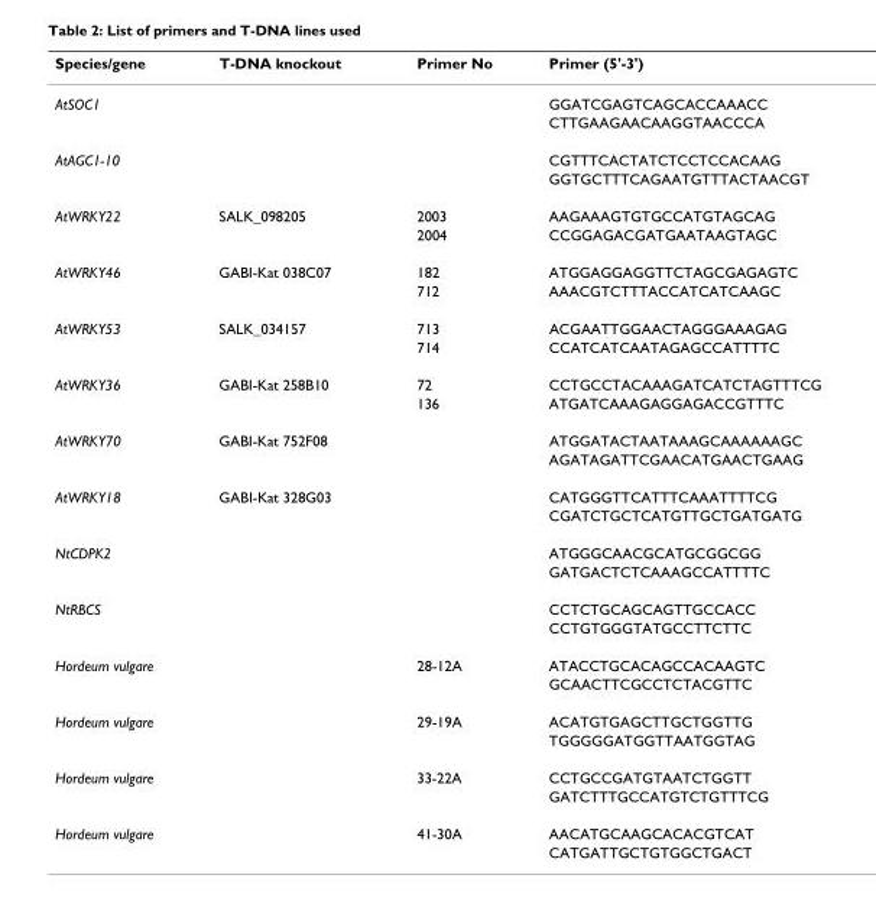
<table><thead><tr><td>Species/gene</td><td>T-DNA knockout</td><td>Primer No</td><td>Primer (5&#x27;-3&#x27;)</td></tr></thead><tbody><tr><td rowspan="2">AtSOC1</td><td></td><td></td><td>GGATCGAGTCAGCACCAAACC</td></tr><tr><td></td><td></td><td>CTTGAAGAACAAGGTAACCCA</td></tr><tr><td rowspan="2">AtAGC1-10</td><td></td><td></td><td>CGTTTCACTATCTCCTCCACAAG</td></tr><tr><td></td><td></td><td>GGTGCTTTCAGAATGTTTACTAACGT</td></tr><tr><td rowspan="2">AtWRKY22</td><td>SALK_098205</td><td>2003</td><td>AAGAAAGTGTGCCATGTAGCAG</td></tr><tr><td></td><td>2004</td><td>CCGGAGACGATGAATAAGTAGC</td></tr><tr><td rowspan="2">AtWRKY46</td><td>GABI-Kat 038C07</td><td>182</td><td>ATGGAGGAGGTTCTAGCGAGAGTC</td></tr><tr><td></td><td>712</td><td>AAACGTCTTTACCATCATCAAGC</td></tr><tr><td rowspan="2">AtWRKY53</td><td>SALK_034157</td><td>713</td><td>ACGAATTGGAACTAGGGAAAGAG</td></tr><tr><td></td><td>714</td><td>CCATCATCAATAGAGCCATTTTC</td></tr><tr><td rowspan="2">AtWRKY36</td><td>GABI-Kat 258B10</td><td>72</td><td>CCTGCCTACAAAGATCATCTAGTTTCG</td></tr><tr><td></td><td>136</td><td>ATGATCAAAGAGGAGACCGTTTC</td></tr><tr><td rowspan="2">AtWRKY70</td><td>GABI-Kat 752F08</td><td></td><td>ATGGATACTAATAAAGCAAAAAAGC</td></tr><tr><td></td><td></td><td>AGATAGATTCGAACATGAACTGAAG</td></tr><tr><td rowspan="2">AtWRKY18</td><td>GABI-Kat 328G03</td><td></td><td>CATGGGTTCATTTCAAATTTTCG</td></tr><tr><td></td><td></td><td>CGATCTGCTCATGTTGCTGATGATG</td></tr><tr><td rowspan="2">NtCDPK2</td><td></td><td></td><td>ATGGGCAACGCATGCGGCGG</td></tr><tr><td></td><td></td><td>GATGACTCTCAAAGCCATTTTC</td></tr><tr><td rowspan="2">NtRBCS</td><td></td><td></td><td>CCTCTGCAGCAGTTGCCACC</td></tr><tr><td></td><td></td><td>CCTGTGGGTATGCCTTCTTC</td></tr><tr><td rowspan="2">Hordeum vulgare</td><td></td><td>28-12A</td><td>ATACCTGCACAGCCACAAGTC</td></tr><tr><td></td><td></td><td>GCAACTTCGCCTCTACGTTC</td></tr><tr><td rowspan="2">Hordeum vulgare</td><td></td><td>29-19A</td><td>ACATGTGAGCTTGCTGGTTG</td></tr><tr><td></td><td></td><td>TGGGGGATGGTTAATGGTAG</td></tr><tr><td rowspan="2">Hordeum vulgare</td><td></td><td>33-22A</td><td>CCTGCCGATGTAATCTGGTT</td></tr><tr><td></td><td></td><td>GATCTTTGCCATGTCTGTTTCG</td></tr><tr><td rowspan="2">Hordeum vulgare</td><td></td><td>41-30A</td><td>AACATGCAAGCACACGTCAT</td></tr><tr><td></td><td></td><td>CATGATTGCTGTGGCTGACT</td></tr></tbody></table>